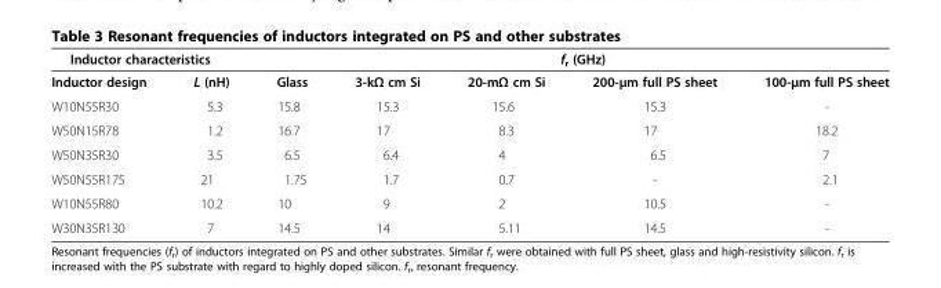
<table><thead><tr><td colspan="2">Inductor characteristics</td><td colspan="5">f<sub>r</sub> (GHz)</td></tr><tr><td>Inductor design</td><td>L (nH)</td><td>Glass</td><td>3-kΩ cm Si</td><td>20-mΩ cm Si</td><td>200-μm full PS sheet</td><td>100-μm full PS sheet</td></tr></thead><tbody><tr><td>W10N55R30</td><td>5.3</td><td>15.8</td><td>15.3</td><td>15.6</td><td>15.3</td><td>-</td></tr><tr><td>W50N15R78</td><td>1.2</td><td>16.7</td><td>17</td><td>8.3</td><td>17</td><td>18.2</td></tr><tr><td>W50N35R30</td><td>3.5</td><td>6.5</td><td>6.4</td><td>4</td><td>6.5</td><td>7</td></tr><tr><td>W50N55R175</td><td>21</td><td>1.75</td><td>1.7</td><td>0.7</td><td>-</td><td>2.1</td></tr><tr><td>W10N55R80</td><td>10.2</td><td>10</td><td>9</td><td>2</td><td>10.5</td><td>-</td></tr><tr><td>W30N35R130</td><td>7</td><td>14.5</td><td>14</td><td>5.11</td><td>14.5</td><td>-</td></tr></tbody></table>